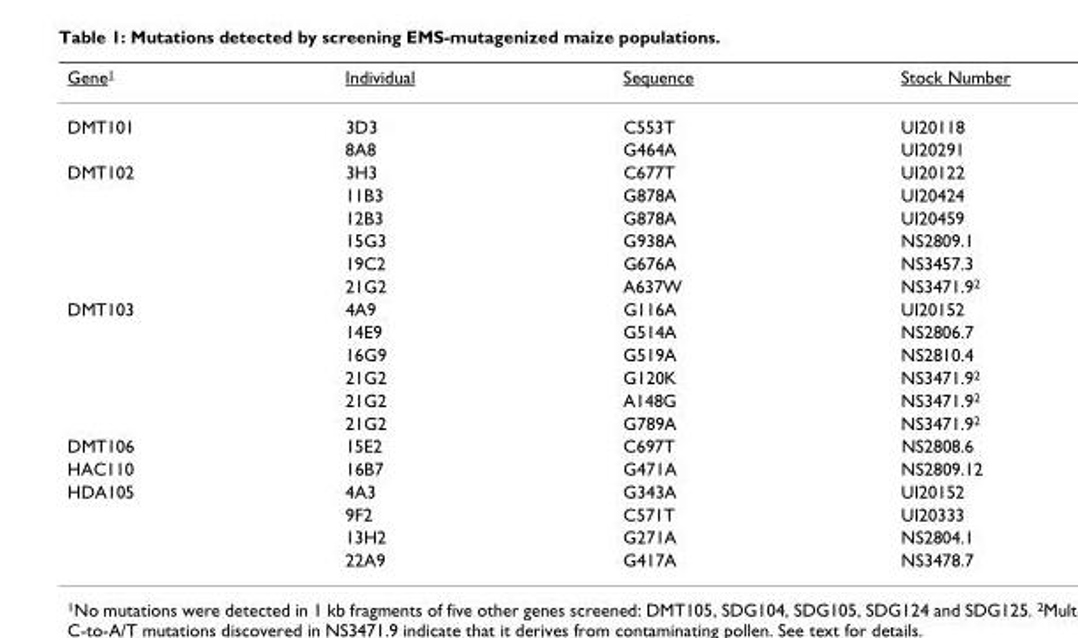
<table><thead><tr><td>Gene1</td><td>Individual</td><td>Sequence</td><td>Stock Number</td></tr></thead><tbody><tr><td rowspan="2">DMT101</td><td>3D3</td><td>C553T</td><td>UI20118</td></tr><tr><td>8A8</td><td>G464A</td><td>UI20291</td></tr><tr><td rowspan="6">DMT102</td><td>3H3</td><td>C677T</td><td>UI20122</td></tr><tr><td>11B3</td><td>G878A</td><td>UI20424</td></tr><tr><td>12B3</td><td>G878A</td><td>UI20459</td></tr><tr><td>15G3</td><td>G938A</td><td>NS2809.1</td></tr><tr><td>19C2</td><td>G676A</td><td>NS3457.3</td></tr><tr><td>21G2</td><td>A637W</td><td>NS3471.92</td></tr><tr><td rowspan="6">DMT103</td><td>4A9</td><td>G116A</td><td>UI20152</td></tr><tr><td>14E9</td><td>G514A</td><td>NS2806.7</td></tr><tr><td>16G9</td><td>G519A</td><td>NS2810.4</td></tr><tr><td>21G2</td><td>G120K</td><td>NS3471.92</td></tr><tr><td>21G2</td><td>A148G</td><td>NS3471.92</td></tr><tr><td>21G2</td><td>G789A</td><td>NS3471.92</td></tr><tr><td>DMT106</td><td>15E2</td><td>C697T</td><td>NS2808.6</td></tr><tr><td>HAC110</td><td>16B7</td><td>G471A</td><td>NS2809.12</td></tr><tr><td rowspan="4">HDA105</td><td>4A3</td><td>G343A</td><td>UI20152</td></tr><tr><td>9F2</td><td>C571T</td><td>UI20333</td></tr><tr><td>13H2</td><td>G271A</td><td>NS2804.1</td></tr><tr><td>22A9</td><td>G417A</td><td>NS3478.7</td></tr></tbody></table>